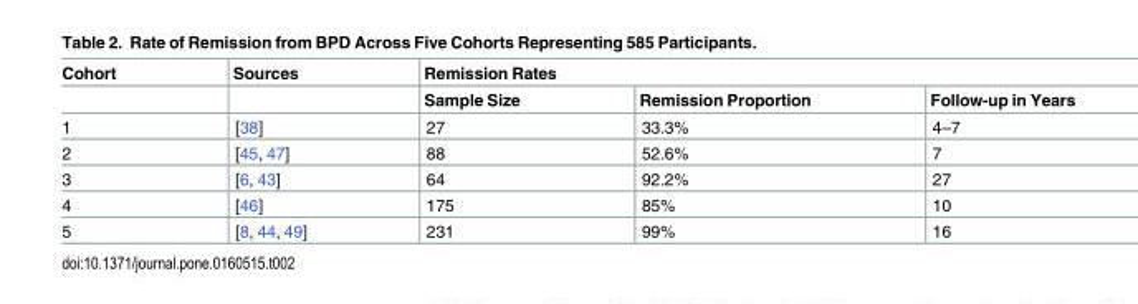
<table><thead><tr><td rowspan="2">Cohort</td><td rowspan="2">Sources</td><td colspan="3">Remission Rates</td></tr><tr><td>Sample Size</td><td>Remission Proportion</td><td>Follow-up in Years</td></tr></thead><tbody><tr><td>1</td><td>[38]</td><td>27</td><td>33.3%</td><td>4–7</td></tr><tr><td>2</td><td>[45, 47]</td><td>88</td><td>52.6%</td><td>7</td></tr><tr><td>3</td><td>[6, 43]</td><td>64</td><td>92.2%</td><td>27</td></tr><tr><td>4</td><td>[46]</td><td>175</td><td>85%</td><td>10</td></tr><tr><td>5</td><td>[8, 44, 49]</td><td>231</td><td>99%</td><td>16</td></tr></tbody></table>